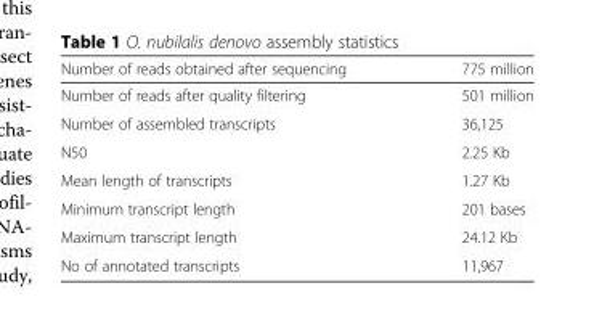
<table><thead><tr><td>Number of reads obtained after sequencing</td><td>775 million</td></tr></thead><tbody><tr><td>Number of reads after quality filtering</td><td>501 million</td></tr><tr><td>Number of assembled transcripts</td><td>36,125</td></tr><tr><td>N50</td><td>2.25 Kb</td></tr><tr><td>Mean length of transcripts</td><td>1.27 Kb</td></tr><tr><td>Minimum transcript length</td><td>201 bases</td></tr><tr><td>Maximum transcript length</td><td>24.12 Kb</td></tr><tr><td>No of annotated transcripts</td><td>11,967</td></tr></tbody></table>